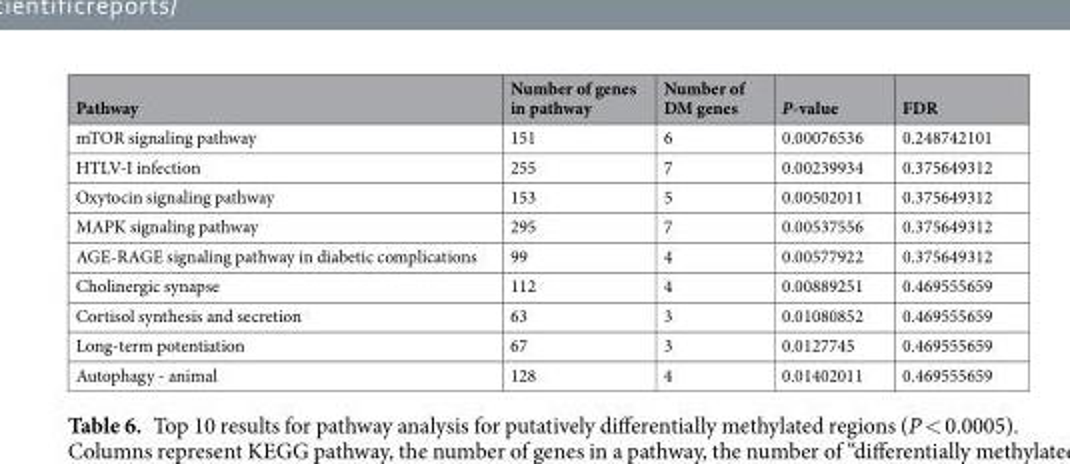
<table><thead><tr><td>Pathway</td><td>Number of genes in pathway</td><td>Number of DM genes</td><td>P-value</td><td>FDR</td></tr></thead><tbody><tr><td>mTOR signaling pathway</td><td>151</td><td>6</td><td>0.00076536</td><td>0.248742101</td></tr><tr><td>HTLV-I infection</td><td>255</td><td>7</td><td>0.00239934</td><td>0.375649312</td></tr><tr><td>Oxytocin signaling pathway</td><td>153</td><td>5</td><td>0.00502011</td><td>0.375649312</td></tr><tr><td>MAPK signaling pathway</td><td>295</td><td>7</td><td>0.00537556</td><td>0.375649312</td></tr><tr><td>AGE-RAGE signaling pathway in diabetic complications</td><td>99</td><td>4</td><td>0.00577922</td><td>0.375649312</td></tr><tr><td>Cholinergic synapse</td><td>112</td><td>4</td><td>0.00889251</td><td>0.469555659</td></tr><tr><td>Cortisol synthesis and secretion</td><td>63</td><td>3</td><td>0.01080852</td><td>0.469555659</td></tr><tr><td>Long-term potentiation</td><td>67</td><td>3</td><td>0.0127745</td><td>0.469555659</td></tr><tr><td>Autophagy - animal</td><td>128</td><td>4</td><td>0.01402011</td><td>0.469555659</td></tr></tbody></table>